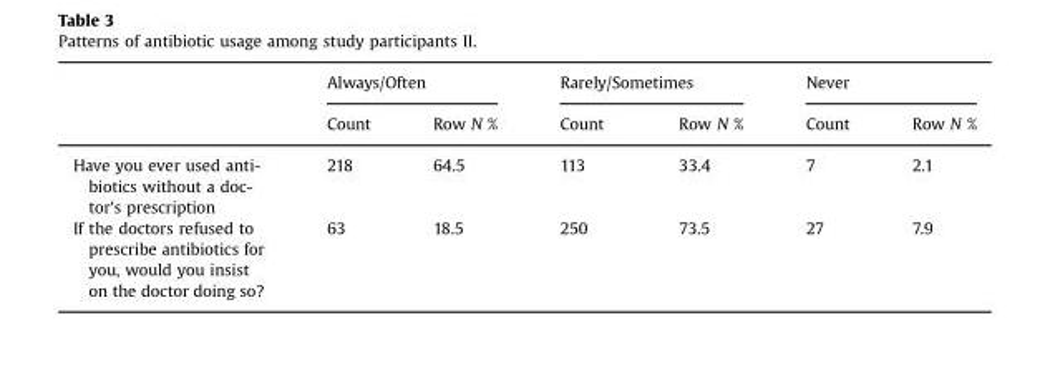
<table><thead><tr><td rowspan="2"></td><td colspan="2">Always/Often</td><td colspan="2">Rarely/Sometimes</td><td colspan="2">Never</td></tr><tr><td>Count</td><td>Row N %</td><td>Count</td><td>Row N %</td><td>Count</td><td>Row N %</td></tr></thead><tbody><tr><td>Have you ever used anti- biotics without a doc- tor&#x27;s prescription</td><td>218</td><td>64.5</td><td>113</td><td>33.4</td><td>7</td><td>2.1</td></tr><tr><td>If the doctors refused to prescribe antibiotics for you, would you insist on the doctor doing so?</td><td>63</td><td>18.5</td><td>250</td><td>73.5</td><td>27</td><td>7.9</td></tr></tbody></table>